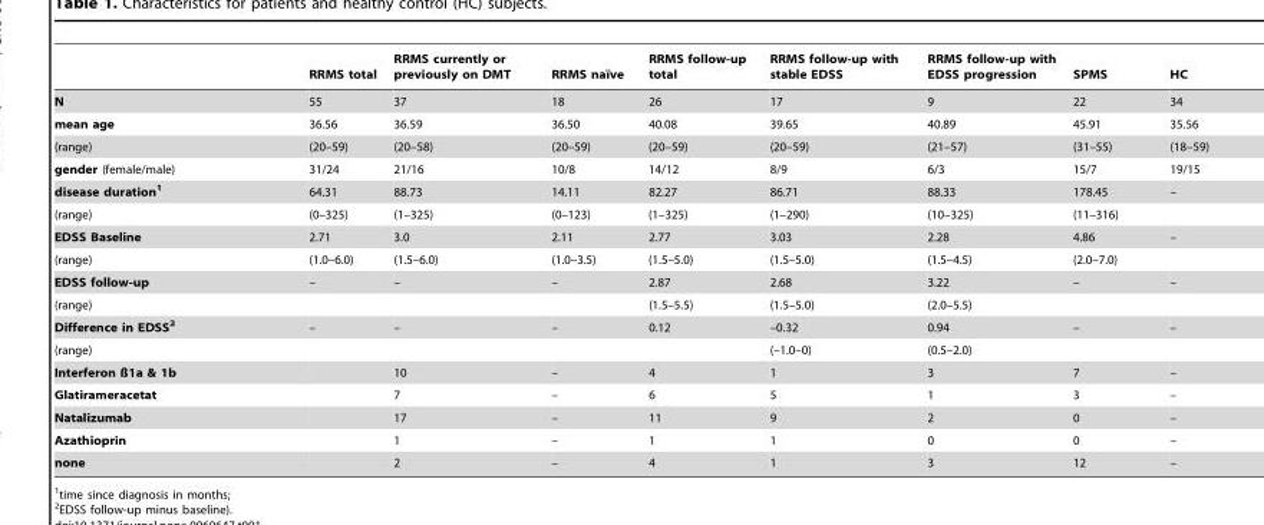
<table><thead><tr><td></td><td>RRMS total</td><td>RRMS currently or previously on DMT</td><td>RRMS naı¨ve</td><td>RRMS follow-up total</td><td>RRMS follow-up with stable EDSS</td><td>RRMS follow-up with EDSS progression</td><td>SPMS</td><td>HC</td></tr></thead><tbody><tr><td>N</td><td>55</td><td>37</td><td>18</td><td>26</td><td>17</td><td>9</td><td>22</td><td>34</td></tr><tr><td>mean age</td><td>36.56</td><td>36.59</td><td>36.50</td><td>40.08</td><td>39.65</td><td>40.89</td><td>45.91</td><td>35.56</td></tr><tr><td>(range)</td><td>(20–59)</td><td>(20–58)</td><td>(20–59)</td><td>(20–59)</td><td>(20–59)</td><td>(21–57)</td><td>(31–55)</td><td>(18–59)</td></tr><tr><td>gender (female/male)</td><td>31/24</td><td>21/16</td><td>10/8</td><td>14/12</td><td>8/9</td><td>6/3</td><td>15/7</td><td>19/15</td></tr><tr><td>disease duration1</td><td>64.31</td><td>88.73</td><td>14.11</td><td>82.27</td><td>86.71</td><td>88.33</td><td>178.45</td><td>–</td></tr><tr><td>(range)</td><td>(0–325)</td><td>(1–325)</td><td>(0–123)</td><td>(1–325)</td><td>(1–290)</td><td>(10–325)</td><td>(11–316)</td><td></td></tr><tr><td>EDSS Baseline</td><td>2.71</td><td>3.0</td><td>2.11</td><td>2.77</td><td>3.03</td><td>2.28</td><td>4.86</td><td>–</td></tr><tr><td>(range)</td><td>(1.0–6.0)</td><td>(1.5–6.0)</td><td>(1.0–3.5)</td><td>(1.5–5.0)</td><td>(1.5–5.0)</td><td>(1.5–4.5)</td><td>(2.0–7.0)</td><td></td></tr><tr><td>EDSS follow-up</td><td>–</td><td>–</td><td>–</td><td>2.87</td><td>2.68</td><td>3.22</td><td>–</td><td>–</td></tr><tr><td>(range)</td><td></td><td></td><td></td><td>(1.5–5.5)</td><td>(1.5–5.0)</td><td>(2.0–5.5)</td><td></td><td></td></tr><tr><td>Difference in EDSS2</td><td>–</td><td>–</td><td>–</td><td>0.12</td><td>–0.32</td><td>0.94</td><td>–</td><td>–</td></tr><tr><td>(range)</td><td></td><td></td><td></td><td></td><td>(–1.0–0)</td><td>(0.5–2.0)</td><td></td><td></td></tr><tr><td>Interferon ß1a &amp; 1b</td><td></td><td>10</td><td>–</td><td>4</td><td>1</td><td>3</td><td>7</td><td>–</td></tr><tr><td>Glatirameracetat</td><td></td><td>7</td><td>–</td><td>6</td><td>5</td><td>1</td><td>3</td><td>–</td></tr><tr><td>Natalizumab</td><td></td><td>17</td><td>–</td><td>11</td><td>9</td><td>2</td><td>0</td><td>–</td></tr><tr><td>Azathioprin</td><td></td><td>1</td><td>–</td><td>1</td><td>1</td><td>0</td><td>0</td><td>–</td></tr><tr><td>none</td><td></td><td>2</td><td>–</td><td>4</td><td>1</td><td>3</td><td>12</td><td>–</td></tr></tbody></table>